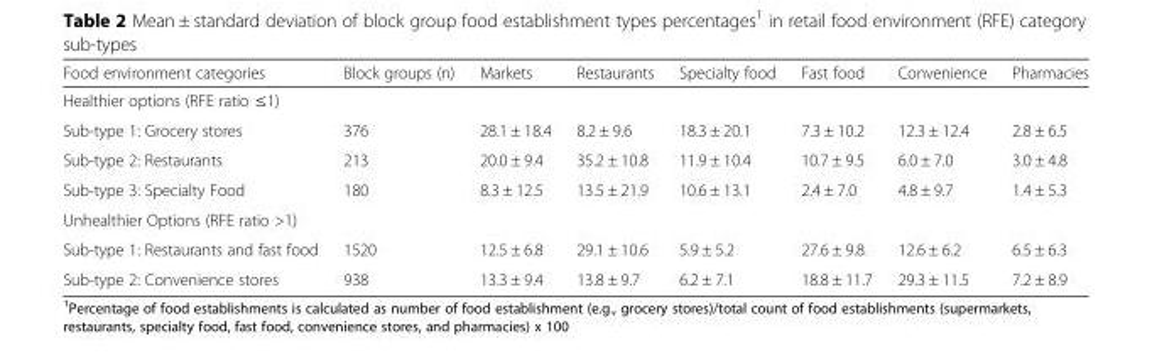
<table><thead><tr><td>Food environment categories</td><td>Block groups (n)</td><td>Markets</td><td>Restaurants</td><td>Specialty food</td><td>Fast food</td><td>Convenience</td><td>Pharmacies</td></tr></thead><tbody><tr><td colspan="8">Healthier options (RFE ratio ≤1)</td></tr><tr><td>Sub-type 1: Grocery stores</td><td>376</td><td>28.1 ± 18.4</td><td>8.2 ± 9.6</td><td>18.3 ± 20.1</td><td>7.3 ± 10.2</td><td>12.3 ± 12.4</td><td>2.8 ± 6.5</td></tr><tr><td>Sub-type 2: Restaurants</td><td>213</td><td>20.0 ± 9.4</td><td>35.2 ± 10.8</td><td>11.9 ± 10.4</td><td>10.7 ± 9.5</td><td>6.0 ± 7.0</td><td>3.0 ± 4.8</td></tr><tr><td>Sub-type 3: Specialty Food</td><td>180</td><td>8.3 ± 12.5</td><td>13.5 ± 21.9</td><td>10.6 ± 13.1</td><td>2.4 ± 7.0</td><td>4.8 ± 9.7</td><td>1.4 ± 5.3</td></tr><tr><td colspan="8">Unhealthier Options (RFE ratio &gt;1)</td></tr><tr><td>Sub-type 1: Restaurants and fast food</td><td>1520</td><td>12.5 ± 6.8</td><td>29.1 ± 10.6</td><td>5.9 ± 5.2</td><td>27.6 ± 9.8</td><td>12.6 ± 6.2</td><td>6.5 ± 6.3</td></tr><tr><td>Sub-type 2: Convenience stores</td><td>938</td><td>13.3 ± 9.4</td><td>13.8 ± 9.7</td><td>6.2 ± 7.1</td><td>18.8 ± 11.7</td><td>29.3 ± 11.5</td><td>7.2 ± 8.9</td></tr></tbody></table>